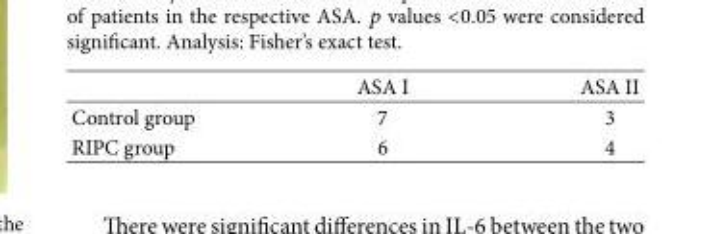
<table><thead><tr><td></td><td>ASA I</td><td>ASA II</td></tr></thead><tbody><tr><td>Control group</td><td>7</td><td>3</td></tr><tr><td>RIPC group</td><td>6</td><td>4</td></tr></tbody></table>